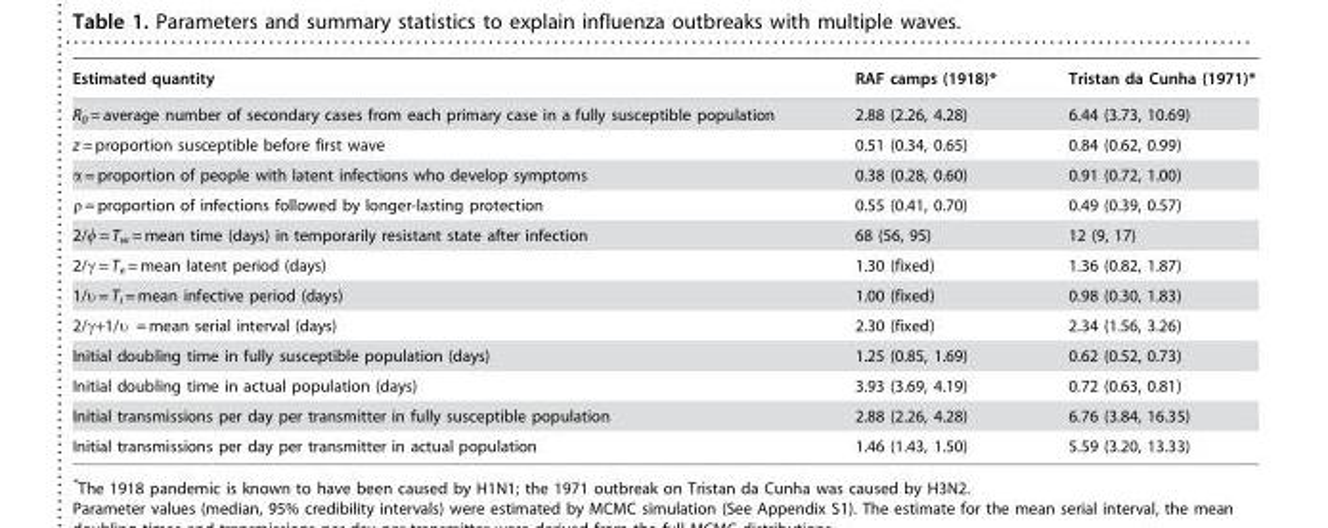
<table><thead><tr><td>Estimated quantity</td><td>RAF camps (1918)*</td><td>Tristan da Cunha (1971)*</td></tr></thead><tbody><tr><td>R<sub>0</sub> = average number of secondary cases from each primary case in a fully susceptible population</td><td>2.88 (2.26, 4.28)</td><td>6.44 (3.73, 10.69)</td></tr><tr><td>z = proportion susceptible before first wave</td><td>0.51 (0.34, 0.65)</td><td>0.84 (0.62, 0.99)</td></tr><tr><td>α = proportion of people with latent infections who develop symptoms</td><td>0.38 (0.28, 0.60)</td><td>0.91 (0.72, 1.00)</td></tr><tr><td>ρ = proportion of infections followed by longer-lasting protection</td><td>0.55 (0.41, 0.70)</td><td>0.49 (0.39, 0.57)</td></tr><tr><td>2/φ = T<sub>w</sub> = mean time (days) in temporarily resistant state after infection</td><td>68 (56, 95)</td><td>12 (9, 17)</td></tr><tr><td>2/γ = T<sub>e</sub> = mean latent period (days)</td><td>1.30 (fixed)</td><td>1.36 (0.82, 1.87)</td></tr><tr><td>1/υ = T<sub>i</sub> = mean infective period (days)</td><td>1.00 (fixed)</td><td>0.98 (0.30, 1.83)</td></tr><tr><td>2/γ+1/υ = mean serial interval (days)</td><td>2.30 (fixed)</td><td>2.34 (1.56, 3.26)</td></tr><tr><td>Initial doubling time in fully susceptible population (days)</td><td>1.25 (0.85, 1.69)</td><td>0.62 (0.52, 0.73)</td></tr><tr><td>Initial doubling time in actual population (days)</td><td>3.93 (3.69, 4.19)</td><td>0.72 (0.63, 0.81)</td></tr><tr><td>Initial transmissions per day per transmitter in fully susceptible population</td><td>2.88 (2.26, 4.28)</td><td>6.76 (3.84, 16.35)</td></tr><tr><td>Initial transmissions per day per transmitter in actual population</td><td>1.46 (1.43, 1.50)</td><td>5.59 (3.20, 13.33)</td></tr></tbody></table>